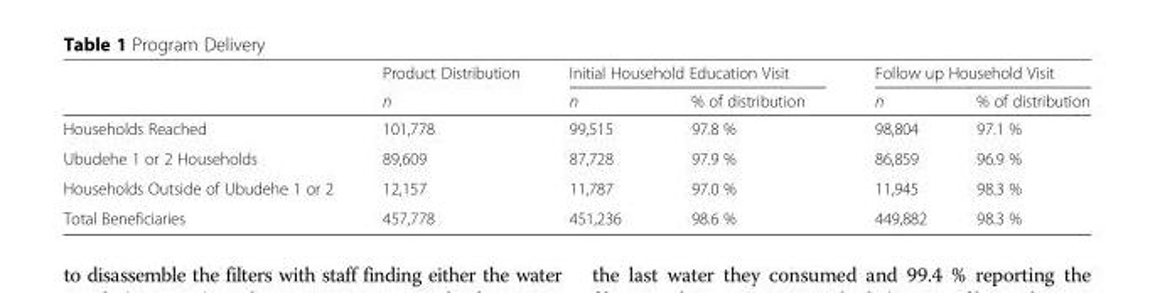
<table><thead><tr><td rowspan="2"></td><td rowspan="2">Product Distribution n</td><td colspan="2">Initial Household Education Visit</td><td colspan="2">Follow up Household Visit</td></tr><tr><td>n</td><td>% of distribution</td><td>n</td><td>% of distribution</td></tr></thead><tbody><tr><td>Households Reached</td><td>101,778</td><td>99,515</td><td>97.8 %</td><td>98,804</td><td>97.1 %</td></tr><tr><td>Ubudehe 1 or 2 Households</td><td>89,609</td><td>87,728</td><td>97.9 %</td><td>86,859</td><td>96.9 %</td></tr><tr><td>Households Outside of Ubudehe 1 or 2</td><td>12,157</td><td>11,787</td><td>97.0 %</td><td>11,945</td><td>98.3 %</td></tr><tr><td>Total Beneficiaries</td><td>457,778</td><td>451,236</td><td>98.6 %</td><td>449,882</td><td>98.3 %</td></tr></tbody></table>